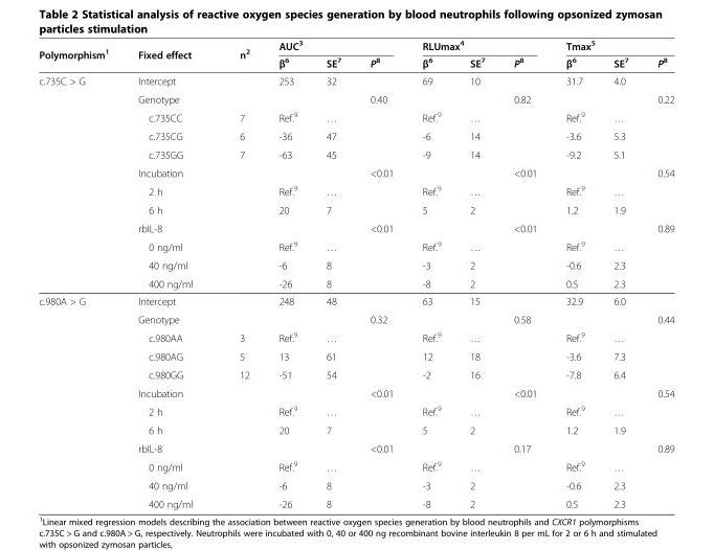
<table><thead><tr><td rowspan="2">Polymorphism<sup>1</sup></td><td rowspan="2">Fixed effect</td><td rowspan="2">n<sup>2</sup></td><td colspan="3">AUC<sup>3</sup></td><td colspan="3">RLUmax<sup>4</sup></td><td colspan="3">Tmax<sup>5</sup></td></tr><tr><td>β<sup>6</sup></td><td>SE<sup>7</sup></td><td>P<sup>8</sup></td><td>β<sup>6</sup></td><td>SE<sup>7</sup></td><td>P<sup>8</sup></td><td>β<sup>6</sup></td><td>SE<sup>7</sup></td><td>P<sup>8</sup></td></tr></thead><tbody><tr><td rowspan="12">c.735C &gt; G</td><td>Intercept</td><td></td><td>253</td><td>32</td><td></td><td>69</td><td>10</td><td></td><td>31.7</td><td>4.0</td><td></td></tr><tr><td>Genotype</td><td></td><td></td><td></td><td>0.40</td><td></td><td></td><td>0.82</td><td></td><td></td><td>0.22</td></tr><tr><td>c.735CC</td><td>7</td><td>Ref.<sup>9</sup></td><td>…</td><td></td><td>Ref.<sup>9</sup></td><td>…</td><td></td><td>Ref.<sup>9</sup></td><td>…</td><td></td></tr><tr><td>c.735CG</td><td>6</td><td>-36</td><td>47</td><td></td><td>-6</td><td>14</td><td></td><td>-3.6</td><td>5.3</td><td></td></tr><tr><td>c.735GG</td><td>7</td><td>-63</td><td>45</td><td></td><td>-9</td><td>14</td><td></td><td>-9.2</td><td>5.1</td><td></td></tr><tr><td>Incubation</td><td></td><td></td><td></td><td>&lt;0.01</td><td></td><td></td><td>&lt;0.01</td><td></td><td></td><td>0.54</td></tr><tr><td>2 h</td><td></td><td>Ref.<sup>9</sup></td><td>…</td><td></td><td>Ref.<sup>9</sup></td><td>…</td><td></td><td>Ref.<sup>9</sup></td><td>…</td><td></td></tr><tr><td>6 h</td><td></td><td>20</td><td>7</td><td></td><td>5</td><td>2</td><td></td><td>1.2</td><td>1.9</td><td></td></tr><tr><td>rbIL-8</td><td></td><td></td><td></td><td>&lt;0.01</td><td></td><td></td><td>&lt;0.01</td><td></td><td></td><td>0.89</td></tr><tr><td>0 ng/ml</td><td></td><td>Ref.<sup>9</sup></td><td>…</td><td></td><td>Ref.<sup>9</sup></td><td>…</td><td></td><td>Ref.<sup>9</sup></td><td>…</td><td></td></tr><tr><td>40 ng/ml</td><td></td><td>-6</td><td>8</td><td></td><td>-3</td><td>2</td><td></td><td>-0.6</td><td>2.3</td><td></td></tr><tr><td>400 ng/ml</td><td></td><td>-26</td><td>8</td><td></td><td>-8</td><td>2</td><td></td><td>0.5</td><td>2.3</td><td></td></tr><tr><td rowspan="12">c.980A &gt; G</td><td>Intercept</td><td></td><td>248</td><td>48</td><td></td><td>63</td><td>15</td><td></td><td>32.9</td><td>6.0</td><td></td></tr><tr><td>Genotype</td><td></td><td></td><td></td><td>0.32</td><td></td><td></td><td>0.58</td><td></td><td></td><td>0.44</td></tr><tr><td>c.980AA</td><td>3</td><td>Ref.<sup>9</sup></td><td>…</td><td></td><td>Ref.<sup>9</sup></td><td>…</td><td></td><td>Ref.<sup>9</sup></td><td>…</td><td></td></tr><tr><td>c.980AG</td><td>5</td><td>13</td><td>61</td><td></td><td>12</td><td>18</td><td></td><td>-3.6</td><td>7.3</td><td></td></tr><tr><td>c.980GG</td><td>12</td><td>-51</td><td>54</td><td></td><td>-2</td><td>16</td><td></td><td>-7.8</td><td>6.4</td><td></td></tr><tr><td>Incubation</td><td></td><td></td><td></td><td>&lt;0.01</td><td></td><td></td><td>&lt;0.01</td><td></td><td></td><td>0.54</td></tr><tr><td>2 h</td><td></td><td>Ref.<sup>9</sup></td><td>…</td><td></td><td>Ref.<sup>9</sup></td><td>…</td><td></td><td>Ref.<sup>9</sup></td><td>…</td><td></td></tr><tr><td>6 h</td><td></td><td>20</td><td>7</td><td></td><td>5</td><td>2</td><td></td><td>1.2</td><td>1.9</td><td></td></tr><tr><td>rbIL-8</td><td></td><td></td><td></td><td>&lt;0.01</td><td></td><td></td><td>0.17</td><td></td><td></td><td>0.89</td></tr><tr><td>0 ng/ml</td><td></td><td>Ref.<sup>9</sup></td><td>…</td><td></td><td>Ref.<sup>9</sup></td><td>…</td><td></td><td>Ref.<sup>9</sup></td><td>…</td><td></td></tr><tr><td>40 ng/ml</td><td></td><td>-6</td><td>8</td><td></td><td>-3</td><td>2</td><td></td><td>-0.6</td><td>2.3</td><td></td></tr><tr><td>400 ng/ml</td><td></td><td>-26</td><td>8</td><td></td><td>-8</td><td>2</td><td></td><td>0.5</td><td>2.3</td><td></td></tr></tbody></table>